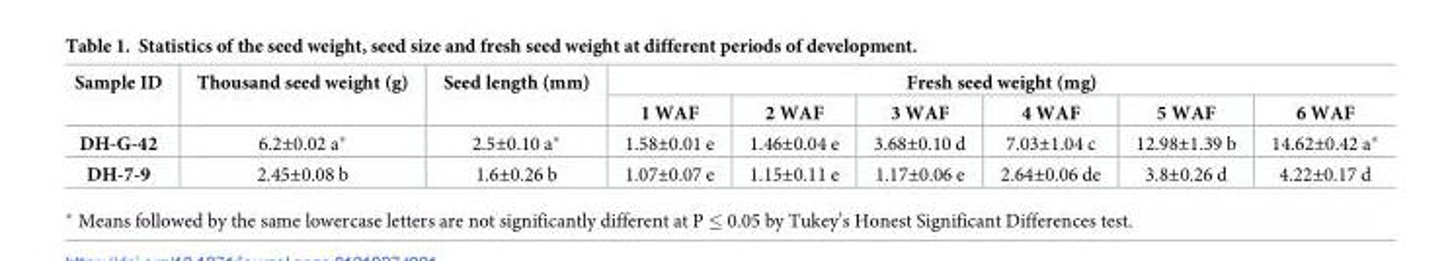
<table><thead><tr><td rowspan="2">Sample ID</td><td rowspan="2">Thousand seed weight (g)</td><td rowspan="2">Seed length (mm)</td><td colspan="6">Fresh seed weight (mg)</td></tr><tr><td>1 WAF</td><td>2 WAF</td><td>3 WAF</td><td>4 WAF</td><td>5 WAF</td><td>6 WAF</td></tr></thead><tbody><tr><td>DH-G-42</td><td>6.2±0.02 a*</td><td>2.5±0.10 a*</td><td>1.58±0.01 e</td><td>1.46±0.04 e</td><td>3.68±0.10 d</td><td>7.03±1.04 c</td><td>12.98±1.39 b</td><td>14.62±0.42 a*</td></tr><tr><td>DH-7-9</td><td>2.45±0.08 b</td><td>1.6±0.26 b</td><td>1.07±0.07 e</td><td>1.15±0.11 e</td><td>1.17±0.06 e</td><td>2.64±0.06 de</td><td>3.8±0.26 d</td><td>4.22±0.17 d</td></tr></tbody></table>